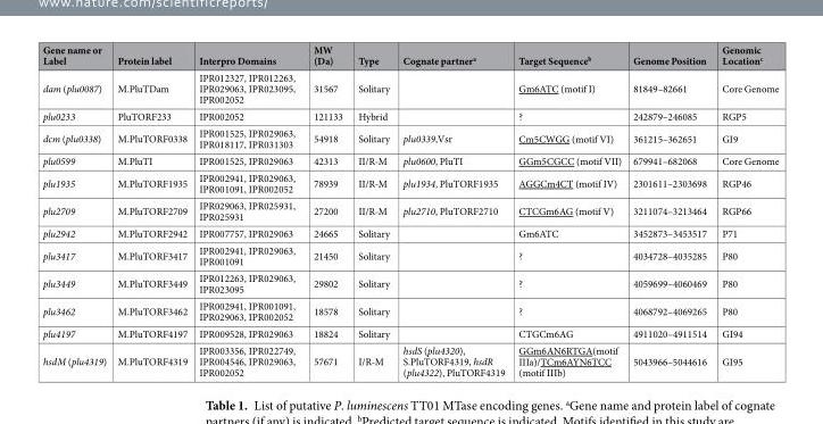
<table><thead><tr><td>Gene name or Label</td><td>Protein label</td><td>Interpro Domains</td><td>MW (Da)</td><td>Type</td><td>Cognate partner<sup>a</sup></td><td>Target Sequence<sup>b</sup></td><td>Genome Position</td><td>Genomic Location<sup>c</sup></td></tr></thead><tbody><tr><td>dam (plu0087)</td><td>M.PluTDam</td><td>IPR012327, IPR012263, IPR029063, IPR023095, IPR002052</td><td>31567</td><td>Solitary</td><td></td><td>Gm6ATC (motif I)</td><td>81849–82661</td><td>Core Genome</td></tr><tr><td>plu0233</td><td>PluTORF233</td><td>IPR002052</td><td>121133</td><td>Hybrid</td><td></td><td>?</td><td>242879–246085</td><td>RGP5</td></tr><tr><td>dcm (plu0338)</td><td>M.PluTORF0338</td><td>IPR001525, IPR029063, IPR018117, IPR031303</td><td>54918</td><td>Solitary</td><td>plu0339,Vsr</td><td>Cm5CWGG (motif VI)</td><td>361215–362651</td><td>GI9</td></tr><tr><td>plu0599</td><td>M.PluTI</td><td>IPR001525, IPR029063</td><td>42313</td><td>II/R-M</td><td>plu0600, PluTI</td><td>GGm5CGCC (motif VII)</td><td>679941–682068</td><td>Core Genome</td></tr><tr><td>plu1935</td><td>M.PluTORF1935</td><td>IPR002941, IPR029063, IPR001091, IPR002052</td><td>78939</td><td>II/R-M</td><td>plu1934, PluTORF1935</td><td>AGGCm4CT (motif IV)</td><td>2301611–2303698</td><td>RGP46</td></tr><tr><td>plu2709</td><td>M.PluTORF2709</td><td>IPR029063, IPR025931, IPR025931</td><td>27200</td><td>II/R-M</td><td>plu2710, PluTORF2710</td><td>CTCGm6AG (motif V)</td><td>3211074–3213464</td><td>RGP66</td></tr><tr><td>plu2942</td><td>M.PluTORF2942</td><td>IPR007757, IPR029063</td><td>24665</td><td>Solitary</td><td></td><td>Gm6ATC</td><td>3452873–3453517</td><td>P71</td></tr><tr><td>plu3417</td><td>M.PluTORF3417</td><td>IPR002941, IPR029063, IPR001091</td><td>21450</td><td>Solitary</td><td></td><td>?</td><td>4034728–4035285</td><td>P80</td></tr><tr><td>plu3449</td><td>M.PluTORF3449</td><td>IPR012263, IPR029063, IPR023095</td><td>29802</td><td>Solitary</td><td></td><td>?</td><td>4059699–4060469</td><td>P80</td></tr><tr><td>plu3462</td><td>M.PluTORF3462</td><td>IPR002941, IPR001091, IPR029063, IPR002052</td><td>18578</td><td>Solitary</td><td></td><td>?</td><td>4068792–4069265</td><td>P80</td></tr><tr><td>plu4197</td><td>M.PluTORF4197</td><td>IPR009528, IPR029063</td><td>18824</td><td>Solitary</td><td></td><td>CTGCm6AG</td><td>4911020–4911514</td><td>GI94</td></tr><tr><td>hsdM (plu4319)</td><td>M.PluTORF4319</td><td>IPR003356, IPR022749, IPR004546, IPR029063, IPR002052</td><td>57671</td><td>I/R-M</td><td>hsdS (plu4320), S.PluTORF4319, hsdR (plu4322), PluTORF4319</td><td>GGm6AN6RTGA(motif IIIa)/TCm6AYN6TCC (motif IIIb)</td><td>5043966–5044616</td><td>GI95</td></tr></tbody></table>